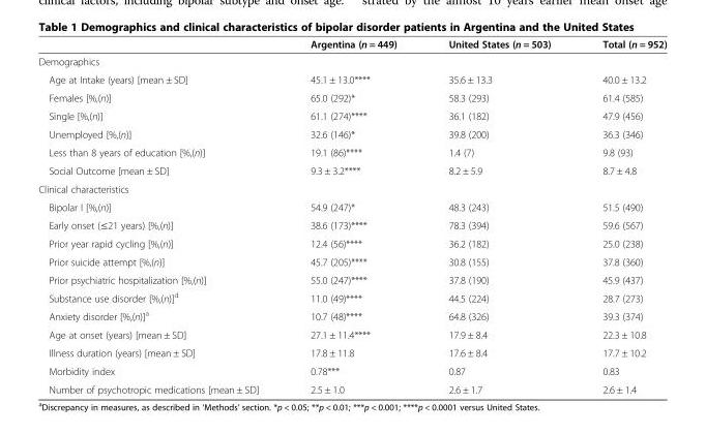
<table><thead><tr><td></td><td>Argentina (n = 449)</td><td>United States (n = 503)</td><td>Total (n = 952)</td></tr></thead><tbody><tr><td colspan="4">Demographics</td></tr><tr><td>Age at Intake (years) [mean ± SD]</td><td>45.1 ± 13.0****</td><td>35.6 ± 13.3</td><td>40.0 ± 13.2</td></tr><tr><td>Females [%,(n)]</td><td>65.0 (292)*</td><td>58.3 (293)</td><td>61.4 (585)</td></tr><tr><td>Single [%,(n)]</td><td>61.1 (274)****</td><td>36.1 (182)</td><td>47.9 (456)</td></tr><tr><td>Unemployed [%,(n)]</td><td>32.6 (146)*</td><td>39.8 (200)</td><td>36.3 (346)</td></tr><tr><td>Less than 8 years of education [%,(n)]</td><td>19.1 (86)****</td><td>1.4 (7)</td><td>9.8 (93)</td></tr><tr><td>Social Outcome [mean ± SD]</td><td>9.3 ± 3.2****</td><td>8.2 ± 5.9</td><td>8.7 ± 4.8</td></tr><tr><td colspan="4">Clinical characteristics</td></tr><tr><td>Bipolar I [%,(n)]</td><td>54.9 (247)*</td><td>48.3 (243)</td><td>51.5 (490)</td></tr><tr><td>Early onset (≤21 years) [%,(n)]</td><td>38.6 (173)****</td><td>78.3 (394)</td><td>59.6 (567)</td></tr><tr><td>Prior year rapid cycling [%,(n)]</td><td>12.4 (56)****</td><td>36.2 (182)</td><td>25.0 (238)</td></tr><tr><td>Prior suicide attempt [%,(n)]</td><td>45.7 (205)****</td><td>30.8 (155)</td><td>37.8 (360)</td></tr><tr><td>Prior psychiatric hospitalization [%,(n)]</td><td>55.0 (247)****</td><td>37.8 (190)</td><td>45.9 (437)</td></tr><tr><td>Substance use disorder [%,(n)]<sup>d</sup></td><td>11.0 (49)****</td><td>44.5 (224)</td><td>28.7 (273)</td></tr><tr><td>Anxiety disorder [%,(n)]<sup>a</sup></td><td>10.7 (48)****</td><td>64.8 (326)</td><td>39.3 (374)</td></tr><tr><td>Age at onset (years) [mean ± SD]</td><td>27.1 ± 11.4****</td><td>17.9 ± 8.4</td><td>22.3 ± 10.8</td></tr><tr><td>Illness duration (years) [mean ± SD]</td><td>17.8 ± 11.8</td><td>17.6 ± 8.4</td><td>17.7 ± 10.2</td></tr><tr><td>Morbidity index</td><td>0.78***</td><td>0.87</td><td>0.83</td></tr><tr><td>Number of psychotropic medications [mean ± SD]</td><td>2.5 ± 1.0</td><td>2.6 ± 1.7</td><td>2.6 ± 1.4</td></tr></tbody></table>